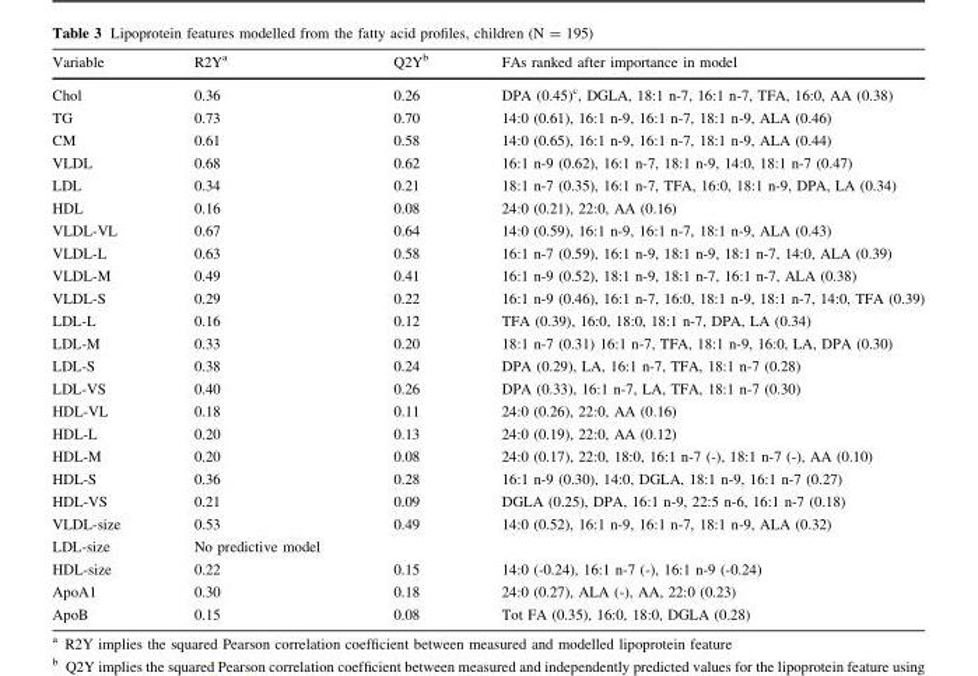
<table><thead><tr><td>Variable</td><td>R2Y<sup>a</sup></td><td>Q2Y<sup>b</sup></td><td>FAs ranked after importance in model</td></tr></thead><tbody><tr><td>Chol</td><td>0.36</td><td>0.26</td><td>DPA (0.45)<sup>c</sup>, DGLA, 18:1 n-7, 16:1 n-7, TFA, 16:0, AA (0.38)</td></tr><tr><td>TG</td><td>0.73</td><td>0.70</td><td>14:0 (0.61), 16:1 n-9, 16:1 n-7, 18:1 n-9, ALA (0.46)</td></tr><tr><td>CM</td><td>0.61</td><td>0.58</td><td>14:0 (0.65), 16:1 n-9, 16:1 n-7, 18:1 n-9, ALA (0.44)</td></tr><tr><td>VLDL</td><td>0.68</td><td>0.62</td><td>16:1 n-9 (0.62), 16:1 n-7, 18:1 n-9, 14:0, 18:1 n-7 (0.47)</td></tr><tr><td>LDL</td><td>0.34</td><td>0.21</td><td>18:1 n-7 (0.35), 16:1 n-7, TFA, 16:0, 18:1 n-9, DPA, LA (0.34)</td></tr><tr><td>HDL</td><td>0.16</td><td>0.08</td><td>24:0 (0.21), 22:0, AA (0.16)</td></tr><tr><td>VLDL-VL</td><td>0.67</td><td>0.64</td><td>14:0 (0.59), 16:1 n-9, 16:1 n-7, 18:1 n-9, ALA (0.43)</td></tr><tr><td>VLDL-L</td><td>0.63</td><td>0.58</td><td>16:1 n-7 (0.59), 16:1 n-9, 18:1 n-9, 18:1 n-7, 14:0, ALA (0.39)</td></tr><tr><td>VLDL-M</td><td>0.49</td><td>0.41</td><td>16:1 n-9 (0.52), 18:1 n-9, 18:1 n-7, 16:1 n-7, ALA (0.38)</td></tr><tr><td>VLDL-S</td><td>0.29</td><td>0.22</td><td>16:1 n-9 (0.46), 16:1 n-7, 16:0, 18:1 n-9, 18:1 n-7, 14:0, TFA (0.39)</td></tr><tr><td>LDL-L</td><td>0.16</td><td>0.12</td><td>TFA (0.39), 16:0, 18:0, 18:1 n-7, DPA, LA (0.34)</td></tr><tr><td>LDL-M</td><td>0.33</td><td>0.20</td><td>18:1 n-7 (0.31) 16:1 n-7, TFA, 18:1 n-9, 16:0, LA, DPA (0.30)</td></tr><tr><td>LDL-S</td><td>0.38</td><td>0.24</td><td>DPA (0.29), LA, 16:1 n-7, TFA, 18:1 n-7 (0.28)</td></tr><tr><td>LDL-VS</td><td>0.40</td><td>0.26</td><td>DPA (0.33), 16:1 n-7, LA, TFA, 18:1 n-7 (0.30)</td></tr><tr><td>HDL-VL</td><td>0.18</td><td>0.11</td><td>24:0 (0.26), 22:0, AA (0.16)</td></tr><tr><td>HDL-L</td><td>0.20</td><td>0.13</td><td>24:0 (0.19), 22:0, AA (0.12)</td></tr><tr><td>HDL-M</td><td>0.20</td><td>0.08</td><td>24:0 (0.17), 22:0, 18:0, 16:1 n-7 (-), 18:1 n-7 (-), AA (0.10)</td></tr><tr><td>HDL-S</td><td>0.36</td><td>0.28</td><td>16:1 n-9 (0.30), 14:0, DGLA, 18:1 n-9, 16:1 n-7 (0.27)</td></tr><tr><td>HDL-VS</td><td>0.21</td><td>0.09</td><td>DGLA (0.25), DPA, 16:1 n-9, 22:5 n-6, 16:1 n-7 (0.18)</td></tr><tr><td>VLDL-size</td><td>0.53</td><td>0.49</td><td>14:0 (0.52), 16:1 n-9, 16:1 n-7, 18:1 n-9, ALA (0.32)</td></tr><tr><td>LDL-size</td><td>No predictive model</td><td></td><td></td></tr><tr><td>HDL-size</td><td>0.22</td><td>0.15</td><td>14:0 (-0.24), 16:1 n-7 (-), 16:1 n-9 (-0.24)</td></tr><tr><td>ApoA1</td><td>0.30</td><td>0.18</td><td>24:0 (0.27), ALA (-), AA, 22:0 (0.23)</td></tr><tr><td>ApoB</td><td>0.15</td><td>0.08</td><td>Tot FA (0.35), 16:0, 18:0, DGLA (0.28)</td></tr></tbody></table>